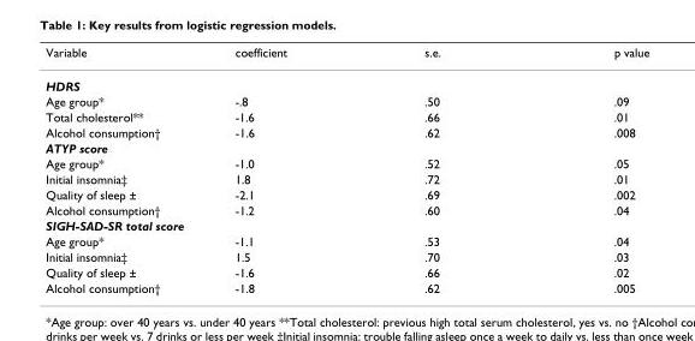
<table><thead><tr><td>Variable</td><td>coefficient</td><td>s.e.</td><td>p value</td></tr></thead><tbody><tr><td colspan="4">HDRS</td></tr><tr><td>Age group*</td><td>-.8</td><td>.50</td><td>.09</td></tr><tr><td>Total cholesterol**</td><td>-1.6</td><td>.66</td><td>.01</td></tr><tr><td>Alcohol consumption†</td><td>-1.6</td><td>.62</td><td>.008</td></tr><tr><td colspan="4">ATYP score</td></tr><tr><td>Age group*</td><td>-1.0</td><td>.52</td><td>.05</td></tr><tr><td>Initial insomnia‡</td><td>1.8</td><td>.72</td><td>.01</td></tr><tr><td>Quality of sleep ±</td><td>-2.1</td><td>.69</td><td>.002</td></tr><tr><td>Alcohol consumption†</td><td>-1.2</td><td>.60</td><td>.04</td></tr><tr><td colspan="4">SIGH-SAD-SR total score</td></tr><tr><td>Age group*</td><td>-1.1</td><td>.53</td><td>.04</td></tr><tr><td>Initial insomnia‡</td><td>1.5</td><td>.70</td><td>.03</td></tr><tr><td>Quality of sleep ±</td><td>-1.6</td><td>.66</td><td>.02</td></tr><tr><td>Alcohol consumption†</td><td>-1.8</td><td>.62</td><td>.005</td></tr></tbody></table>